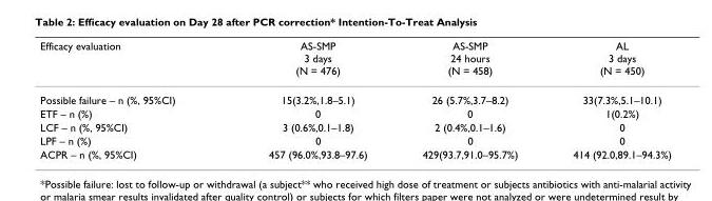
<table><thead><tr><td>Efficacy evaluation</td><td>AS-SMP 3 days (N = 476)</td><td>AS-SMP 24 hours (N = 458)</td><td>AL 3 days (N = 450)</td></tr></thead><tbody><tr><td>Possible failure – n (%, 95%CI)</td><td>15(3.2%,1.8–5.1)</td><td>26 (5.7%,3.7–8.2)</td><td>33(7.3%,5.1–10.1)</td></tr><tr><td>ETF – n (%)</td><td>0</td><td>0</td><td>1(0.2%)</td></tr><tr><td>LCF – n (%, 95%CI)</td><td>3 (0.6%,0.1–1.8)</td><td>2 (0.4%,0.1–1.6)</td><td>0</td></tr><tr><td>LPF – n (%)</td><td>0</td><td>0</td><td>0</td></tr><tr><td>ACPR – n (%, 95%CI)</td><td>457 (96.0%,93.8–97.6)</td><td>429(93.7,91.0–95.7%)</td><td>414 (92.0,89.1–94.3%)</td></tr></tbody></table>